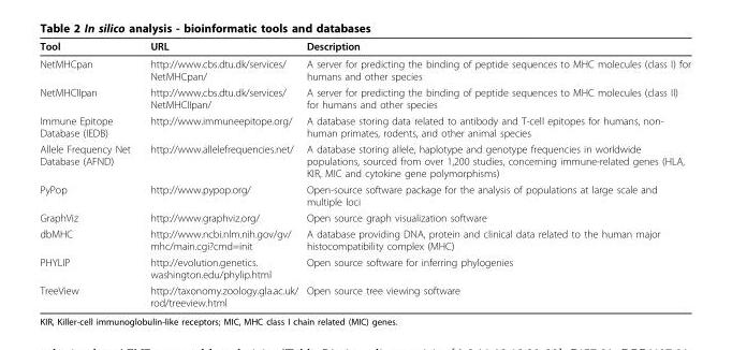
<table><thead><tr><td>Tool</td><td>URL</td><td>Description</td></tr></thead><tbody><tr><td>NetMHCpan</td><td>http://www.cbs.dtu.dk/services/ NetMHCpan/</td><td>A server for predicting the binding of peptide sequences to MHC molecules (class I) for humans and other species</td></tr><tr><td>NetMHCIIpan</td><td>http://www.cbs.dtu.dk/services/ NetMHCIIpan/</td><td>A server for predicting the binding of peptide sequences to MHC molecules (class II) for humans and other species</td></tr><tr><td>Immune Epitope Database (IEDB)</td><td>http://www.immuneepitope.org/</td><td>A database storing data related to antibody and T-cell epitopes for humans, non- human primates, rodents, and other animal species</td></tr><tr><td>Allele Frequency Net Database (AFND)</td><td>http://www.allelefrequencies.net/</td><td>A database storing allele, haplotype and genotype frequencies in worldwide populations, sourced from over 1,200 studies, concerning immune-related genes (HLA, KIR, MIC and cytokine gene polymorphisms)</td></tr><tr><td>PyPop</td><td>http://www.pypop.org/</td><td>Open-source software package for the analysis of populations at large scale and multiple loci</td></tr><tr><td>GraphViz</td><td>http://www.graphviz.org/</td><td>Open source graph visualization software</td></tr><tr><td>dbMHC</td><td>http://www.ncbi.nlm.nih.gov/gv/ mhc/main.cgi?cmd=init</td><td>A database providing DNA, protein and clinical data related to the human major histocompatibility complex (MHC)</td></tr><tr><td>PHYLIP</td><td>http://evolution.genetics. washington.edu/phylip.html</td><td>Open source software for inferring phylogenies</td></tr><tr><td>TreeView</td><td>http://taxonomy.zoology.gla.ac.uk/ rod/treeview.html</td><td>Open source tree viewing software</td></tr></tbody></table>